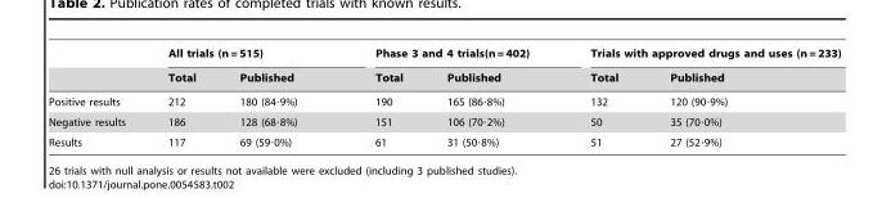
<table><thead><tr><td rowspan="2"></td><td colspan="2">All trials (n = 515)</td><td colspan="2">Phase 3 and 4 trials(n = 402)</td><td colspan="2">Trials with approved drugs and uses (n = 233)</td></tr><tr><td>Total</td><td>Published</td><td>Total</td><td>Published</td><td>Total</td><td>Published</td></tr></thead><tbody><tr><td>Positive results</td><td>212</td><td>180 (84·9%)</td><td>190</td><td>165 (86·8%)</td><td>132</td><td>120 (90·9%)</td></tr><tr><td>Negative results</td><td>186</td><td>128 (68·8%)</td><td>151</td><td>106 (70·2%)</td><td>50</td><td>35 (70·0%)</td></tr><tr><td>Results</td><td>117</td><td>69 (59·0%)</td><td>61</td><td>31 (50·8%)</td><td>51</td><td>27 (52·9%)</td></tr></tbody></table>